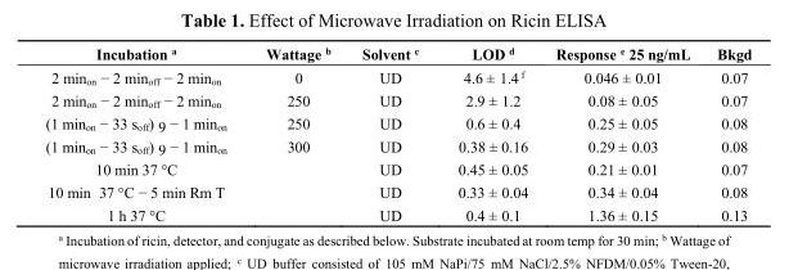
<table><thead><tr><td>Incubation <sup>a</sup></td><td>Wattage <sup>b</sup></td><td>Solvent <sup>c</sup></td><td>LOD <sup>d</sup></td><td>Response <sup>e</sup> 25 ng/mL</td><td>Bkgd</td></tr></thead><tbody><tr><td>2 min<sub>on</sub> − 2 min<sub>off</sub> − 2 min<sub>on</sub></td><td>0</td><td>UD</td><td>4.6 ± 1.4 <sup>f</sup></td><td>0.046 ± 0.01</td><td>0.07</td></tr><tr><td>2 min<sub>on</sub> − 2 min<sub>off</sub> − 2 min<sub>on</sub></td><td>250</td><td>UD</td><td>2.9 ± 1.2</td><td>0.08 ± 0.05</td><td>0.07</td></tr><tr><td>(1 min<sub>on</sub> − 33 s<sub>off</sub>) 9 − 1 min<sub>on</sub></td><td>250</td><td>UD</td><td>0.6 ± 0.4</td><td>0.25 ± 0.05</td><td>0.08</td></tr><tr><td>(1 min<sub>on</sub> − 33 s<sub>off</sub>) 9 − 1 min<sub>on</sub></td><td>300</td><td>UD</td><td>0.38 ± 0.16</td><td>0.29 ± 0.03</td><td>0.08</td></tr><tr><td>10 min 37 °C</td><td></td><td>UD</td><td>0.45 ± 0.05</td><td>0.21 ± 0.01</td><td>0.07</td></tr><tr><td>10 min 37 °C − 5 min Rm T</td><td></td><td>UD</td><td>0.33 ± 0.04</td><td>0.34 ± 0.04</td><td>0.08</td></tr><tr><td>1 h 37 °C</td><td></td><td>UD</td><td>0.4 ± 0.1</td><td>1.36 ± 0.15</td><td>0.13</td></tr></tbody></table>